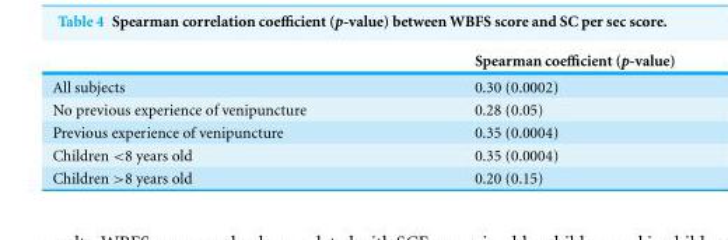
<table><thead><tr><td></td><td>Spearman coefficient (p-value)</td></tr></thead><tbody><tr><td>All subjects</td><td>0.30 (0.0002)</td></tr><tr><td>No previous experience of venipuncture</td><td>0.28 (0.05)</td></tr><tr><td>Previous experience of venipuncture</td><td>0.35 (0.0004)</td></tr><tr><td>Children &lt;8 years old</td><td>0.35 (0.0004)</td></tr><tr><td>Children &gt;8 years old</td><td>0.20 (0.15)</td></tr></tbody></table>